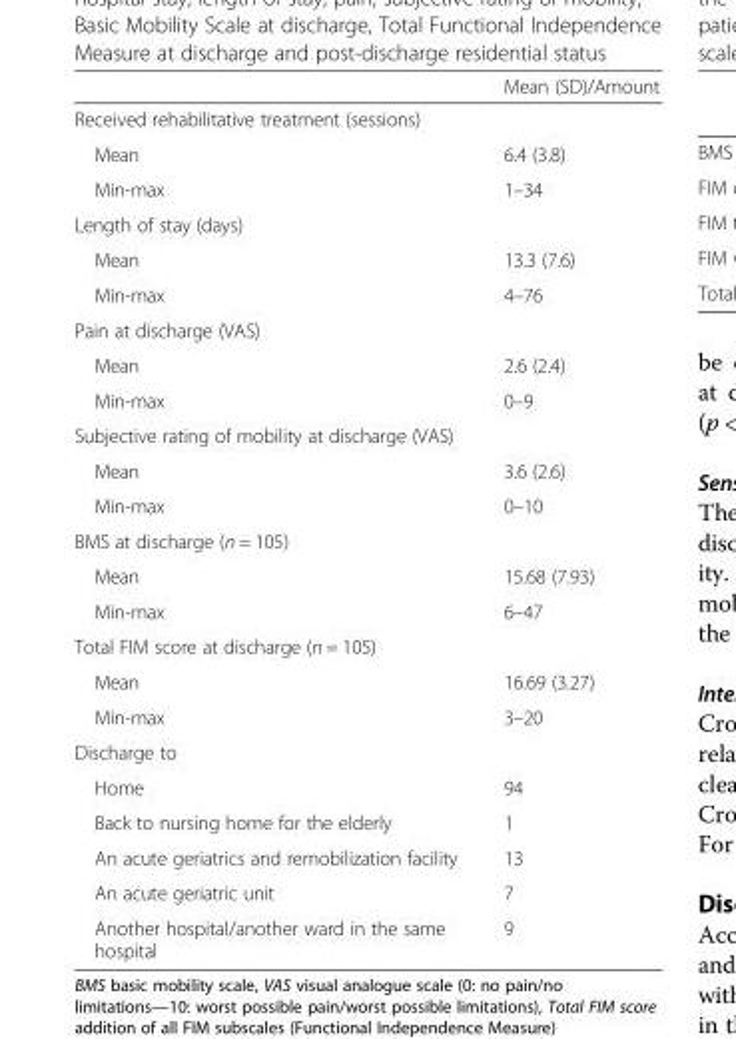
<table><thead><tr><td></td><td>Mean (SD)/Amount</td></tr></thead><tbody><tr><td colspan="2">Received rehabilitative treatment (sessions)</td></tr><tr><td>Mean</td><td>6.4 (3.8)</td></tr><tr><td>Min-max</td><td>1–34</td></tr><tr><td colspan="2">Length of stay (days)</td></tr><tr><td>Mean</td><td>13.3 (7.6)</td></tr><tr><td>Min-max</td><td>4–76</td></tr><tr><td colspan="2">Pain at discharge (VAS)</td></tr><tr><td>Mean</td><td>2.6 (2.4)</td></tr><tr><td>Min-max</td><td>0–9</td></tr><tr><td colspan="2">Subjective rating of mobility at discharge (VAS)</td></tr><tr><td>Mean</td><td>3.6 (2.6)</td></tr><tr><td>Min-max</td><td>0–10</td></tr><tr><td colspan="2">BMS at discharge (n = 105)</td></tr><tr><td>Mean</td><td>15.68 (7.93)</td></tr><tr><td>Min-max</td><td>6–47</td></tr><tr><td colspan="2">Total FIM score at discharge (n = 105)</td></tr><tr><td>Mean</td><td>16.69 (3.27)</td></tr><tr><td>Min-max</td><td>3–20</td></tr><tr><td colspan="2">Discharge to</td></tr><tr><td>Home</td><td>94</td></tr><tr><td>Back to nursing home for the elderly</td><td>1</td></tr><tr><td>An acute geriatrics and remobilization facility</td><td>13</td></tr><tr><td>An acute geriatric unit</td><td>7</td></tr><tr><td>Another hospital/another ward in the same hospital</td><td>9</td></tr></tbody></table>